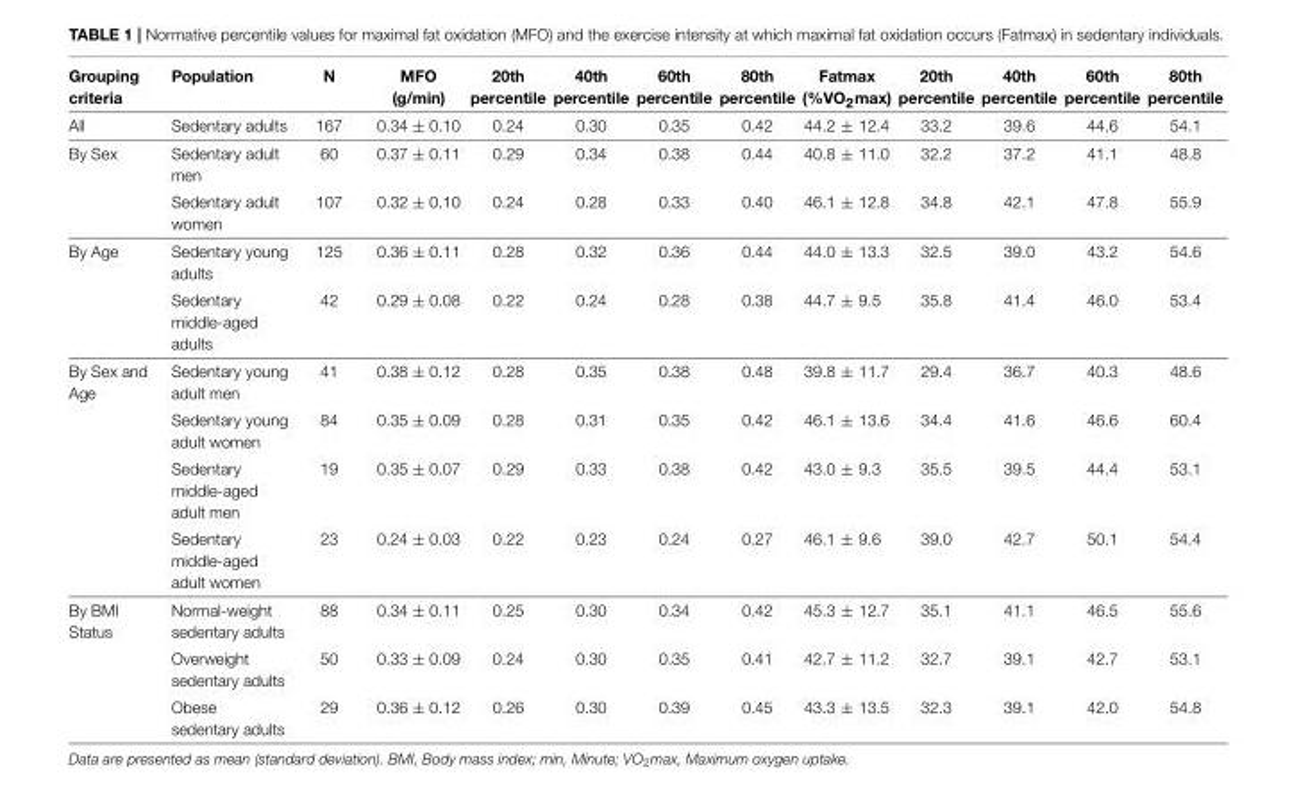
<table><thead><tr><td>Grouping criteria</td><td>Population</td><td>N</td><td>MFO (g/min)</td><td>20th percentile</td><td>40th percentile</td><td>60th percentile</td><td>80th percentile</td><td>Fatmax (%VO<sub>2</sub>max)</td><td>20th percentile</td><td>40th percentile</td><td>60th percentile</td><td>80th percentile</td></tr></thead><tbody><tr><td>All</td><td>Sedentary adults</td><td>167</td><td>0.34 ± 0.10</td><td>0.24</td><td>0.30</td><td>0.35</td><td>0.42</td><td>44.2 ± 12.4</td><td>33.2</td><td>39.6</td><td>44.6</td><td>54.1</td></tr><tr><td rowspan="2">By Sex</td><td>Sedentary adult men</td><td>60</td><td>0.37 ± 0.11</td><td>0.29</td><td>0.34</td><td>0.38</td><td>0.44</td><td>40.8 ± 11.0</td><td>32.2</td><td>37.2</td><td>41.1</td><td>48.8</td></tr><tr><td>Sedentary adult women</td><td>107</td><td>0.32 ± 0.10</td><td>0.24</td><td>0.28</td><td>0.33</td><td>0.40</td><td>46.1 ± 12.8</td><td>34.8</td><td>42.1</td><td>47.8</td><td>55.9</td></tr><tr><td rowspan="2">By Age</td><td>Sedentary young adults</td><td>125</td><td>0.36 ± 0.11</td><td>0.28</td><td>0.32</td><td>0.36</td><td>0.44</td><td>44.0 ± 13.3</td><td>32.5</td><td>39.0</td><td>43.2</td><td>54.6</td></tr><tr><td>Sedentary middle-aged adults</td><td>42</td><td>0.29 ± 0.08</td><td>0.22</td><td>0.24</td><td>0.28</td><td>0.38</td><td>44.7 ± 9.5</td><td>35.8</td><td>41.4</td><td>46.0</td><td>53.4</td></tr><tr><td rowspan="4">By Sex and Age</td><td>Sedentary young adult men</td><td>41</td><td>0.38 ± 0.12</td><td>0.28</td><td>0.35</td><td>0.38</td><td>0.48</td><td>39.8 ± 11.7</td><td>29.4</td><td>36.7</td><td>40.3</td><td>48.6</td></tr><tr><td>Sedentary young adult women</td><td>84</td><td>0.35 ± 0.09</td><td>0.28</td><td>0.31</td><td>0.35</td><td>0.42</td><td>46.1 ± 13.6</td><td>34.4</td><td>41.6</td><td>46.6</td><td>60.4</td></tr><tr><td>Sedentary middle-aged adult men</td><td>19</td><td>0.35 ± 0.07</td><td>0.29</td><td>0.33</td><td>0.38</td><td>0.42</td><td>43.0 ± 9.3</td><td>35.5</td><td>39.5</td><td>44.4</td><td>53.1</td></tr><tr><td>Sedentary middle-aged adult women</td><td>23</td><td>0.24 ± 0.03</td><td>0.22</td><td>0.23</td><td>0.24</td><td>0.27</td><td>46.1 ± 9.6</td><td>39.0</td><td>42.7</td><td>50.1</td><td>54.4</td></tr><tr><td rowspan="3">By BMI Status</td><td>Normal-weight sedentary adults</td><td>88</td><td>0.34 ± 0.11</td><td>0.25</td><td>0.30</td><td>0.34</td><td>0.42</td><td>45.3 ± 12.7</td><td>35.1</td><td>41.1</td><td>46.5</td><td>55.6</td></tr><tr><td>Overweight sedentary adults</td><td>50</td><td>0.33 ± 0.09</td><td>0.24</td><td>0.30</td><td>0.35</td><td>0.41</td><td>42.7 ± 11.2</td><td>32.7</td><td>39.1</td><td>42.7</td><td>53.1</td></tr><tr><td>Obese sedentary adults</td><td>29</td><td>0.36 ± 0.12</td><td>0.26</td><td>0.30</td><td>0.39</td><td>0.45</td><td>43.3 ± 13.5</td><td>32.3</td><td>39.1</td><td>42.0</td><td>54.8</td></tr></tbody></table>